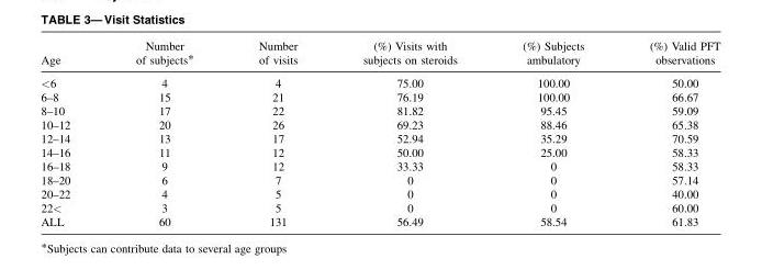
<table><thead><tr><td>Age</td><td>Number of subjects*</td><td>Number of visits</td><td>(%) Visits with subjects on steroids</td><td>(%) Subjects ambulatory</td><td>(%) Valid PFT observations</td></tr></thead><tbody><tr><td>&lt;6</td><td>4</td><td>4</td><td>75.00</td><td>100.00</td><td>50.00</td></tr><tr><td>6–8</td><td>15</td><td>21</td><td>76.19</td><td>100.00</td><td>66.67</td></tr><tr><td>8–10</td><td>17</td><td>22</td><td>81.82</td><td>95.45</td><td>59.09</td></tr><tr><td>10–12</td><td>20</td><td>26</td><td>69.23</td><td>88.46</td><td>65.38</td></tr><tr><td>12–14</td><td>13</td><td>17</td><td>52.94</td><td>35.29</td><td>70.59</td></tr><tr><td>14–16</td><td>11</td><td>12</td><td>50.00</td><td>25.00</td><td>58.33</td></tr><tr><td>16–18</td><td>9</td><td>12</td><td>33.33</td><td>0</td><td>58.33</td></tr><tr><td>18–20</td><td>6</td><td>7</td><td>0</td><td>0</td><td>57.14</td></tr><tr><td>20–22</td><td>4</td><td>5</td><td>0</td><td>0</td><td>40.00</td></tr><tr><td>22&lt;</td><td>3</td><td>5</td><td>0</td><td>0</td><td>60.00</td></tr><tr><td>ALL</td><td>60</td><td>131</td><td>56.49</td><td>58.54</td><td>61.83</td></tr></tbody></table>